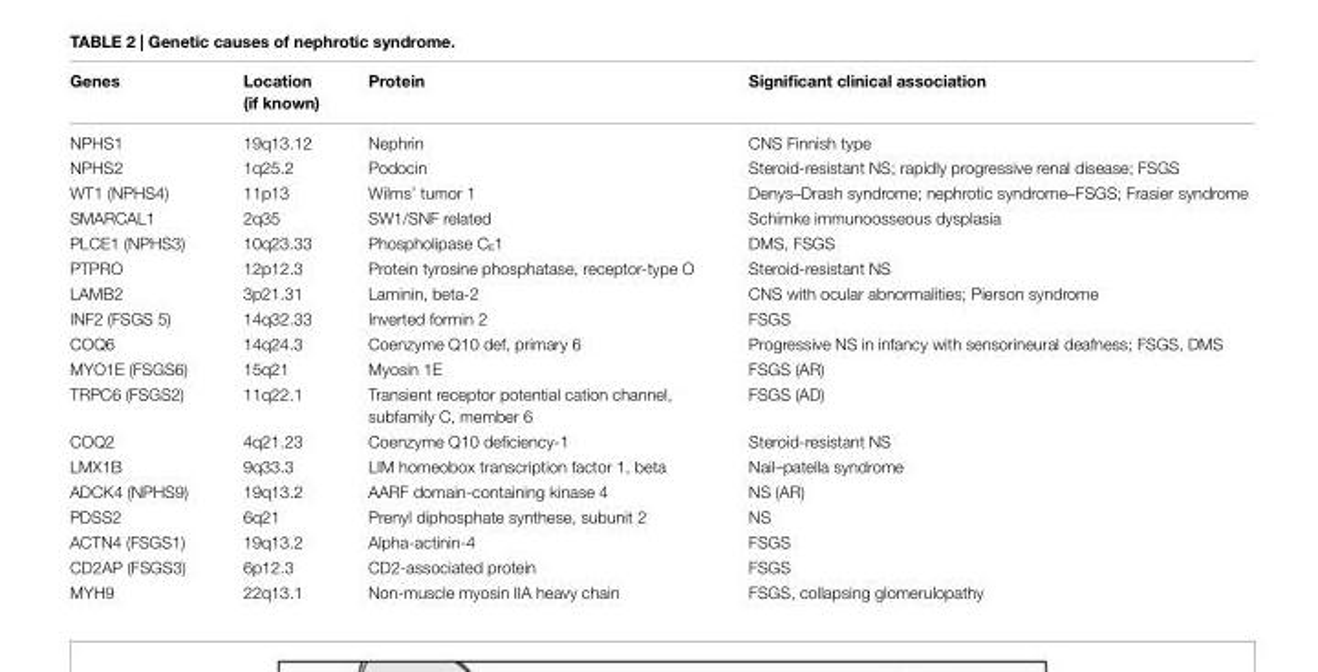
<table><thead><tr><td>Genes</td><td>Location (if known)</td><td>Protein</td><td>Significant clinical association</td></tr></thead><tbody><tr><td>NPHS1</td><td>19q13.12</td><td>Nephrin</td><td>CNS Finnish type</td></tr><tr><td>NPHS2</td><td>1q25.2</td><td>Podocin</td><td>Steroid-resistant NS; rapidly progressive renal disease; FSGS</td></tr><tr><td>WT1 (NPHS4)</td><td>11p13</td><td>Wilms’ tumor 1</td><td>Denys–Drash syndrome; nephrotic syndrome–FSGS; Frasier syndrome</td></tr><tr><td>SMARCAL1</td><td>2q35</td><td>SW1/SNF related</td><td>Schimke immunoosseous dysplasia</td></tr><tr><td>PLCE1 (NPHS3)</td><td>10q23.33</td><td>Phospholipase C<sub>E</sub>1</td><td>DMS, FSGS</td></tr><tr><td>PTPRO</td><td>12p12.3</td><td>Protein tyrosine phosphatase, receptor-type O</td><td>Steroid-resistant NS</td></tr><tr><td>LAMB2</td><td>3p21.31</td><td>Laminin, beta-2</td><td>CNS with ocular abnormalities; Pierson syndrome</td></tr><tr><td>INF2 (FSGS 5)</td><td>14q32.33</td><td>Inverted formin 2</td><td>FSGS</td></tr><tr><td>COQ6</td><td>14q24.3</td><td>Coenzyme Q10 def, primary 6</td><td>Progressive NS in infancy with sensorineural deafness; FSGS, DMS</td></tr><tr><td>MYO1E (FSGS6)</td><td>15q21</td><td>Myosin 1E</td><td>FSGS (AR)</td></tr><tr><td>TRPC6 (FSGS2)</td><td>11q22.1</td><td>Transient receptor potential cation channel, subfamily C, member 6</td><td>FSGS (AD)</td></tr><tr><td>COQ2</td><td>4q21.23</td><td>Coenzyme Q10 deficiency-1</td><td>Steroid-resistant NS</td></tr><tr><td>LMX1B</td><td>9q33.3</td><td>LIM homeobox transcription factor 1, beta</td><td>Nail–patella syndrome</td></tr><tr><td>ADCK4 (NPHS9)</td><td>19q13.2</td><td>AARF domain-containing kinase 4</td><td>NS (AR)</td></tr><tr><td>PDSS2</td><td>6q21</td><td>Prenyl diphosphate synthese, subunit 2</td><td>NS</td></tr><tr><td>ACTN4 (FSGS1)</td><td>19q13.2</td><td>Alpha-actinin-4</td><td>FSGS</td></tr><tr><td>CD2AP (FSGS3)</td><td>6p12.3</td><td>CD2-associated protein</td><td>FSGS</td></tr><tr><td>MYH9</td><td>22q13.1</td><td>Non-muscle myosin IIA heavy chain</td><td>FSGS, collapsing glomerulopathy</td></tr></tbody></table>